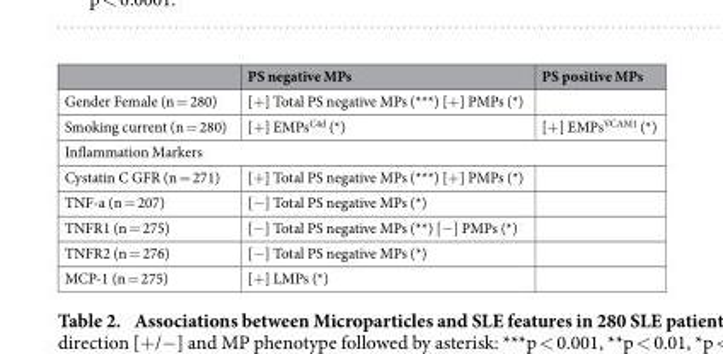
<table><thead><tr><td></td><td>PS negative MPs</td><td>PS positive MPs</td></tr></thead><tbody><tr><td>Gender Female (n = 280)</td><td>[+ ] Total PS negative MPs (***) [+ ] PMPs (*)</td><td></td></tr><tr><td>Smoking current (n = 280)</td><td>[+ ] EMPs<sup>C4d</sup> (*)</td><td>[+ ] EMPs<sup>VCAM1</sup> (*)</td></tr><tr><td colspan="3">Inflammation Markers</td></tr><tr><td>Cystatin C GFR (n = 271)</td><td>[+ ] Total PS negative MPs (***) [+ ] PMPs (*)</td><td></td></tr><tr><td>TNF-a (n = 207)</td><td>[− ] Total PS negative MPs (*)</td><td></td></tr><tr><td>TNFR1 (n = 275)</td><td>[− ] Total PS negative MPs (**) [− ] PMPs (*)</td><td></td></tr><tr><td>TNFR2 (n = 276)</td><td>[− ] Total PS negative MPs (*)</td><td></td></tr><tr><td>MCP-1 (n = 275)</td><td>[+ ] LMPs (*)</td><td></td></tr></tbody></table>